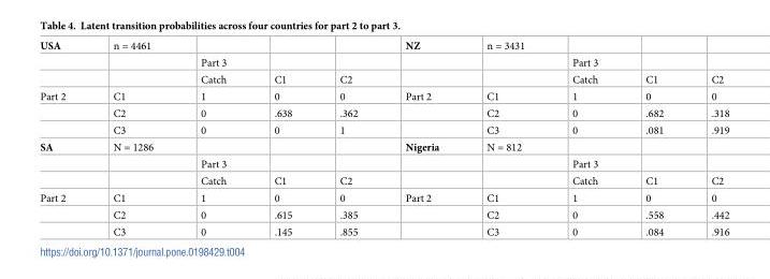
<table><tbody><tr><td rowspan="3">USA</td><td>n = 4461</td><td></td><td></td><td></td><td>NZ</td><td>n = 3431</td><td></td><td></td><td></td></tr><tr><td></td><td>Part 3</td><td></td><td></td><td></td><td></td><td>Part 3</td><td></td><td></td></tr><tr><td></td><td>Catch</td><td>C1</td><td>C2</td><td></td><td></td><td>Catch</td><td>C1</td><td>C2</td></tr><tr><td rowspan="3">Part 2</td><td>C1</td><td>1</td><td>0</td><td>0</td><td>Part 2</td><td>C1</td><td>1</td><td>0</td><td>0</td></tr><tr><td>C2</td><td>0</td><td>.638</td><td>.362</td><td></td><td>C2</td><td>0</td><td>.682</td><td>.318</td></tr><tr><td>C3</td><td>0</td><td>0</td><td>1</td><td></td><td>C3</td><td>0</td><td>.081</td><td>.919</td></tr><tr><td rowspan="3">SA</td><td>N = 1286</td><td></td><td></td><td></td><td>Nigeria</td><td>N = 812</td><td></td><td></td><td></td></tr><tr><td></td><td>Part 3</td><td></td><td></td><td></td><td></td><td>Part 3</td><td></td><td></td></tr><tr><td></td><td>Catch</td><td>C1</td><td>C2</td><td></td><td></td><td>Catch</td><td>C1</td><td>C2</td></tr><tr><td rowspan="3">Part 2</td><td>C1</td><td>1</td><td>0</td><td>0</td><td>Part 2</td><td>C1</td><td>1</td><td>0</td><td>0</td></tr><tr><td>C2</td><td>0</td><td>.615</td><td>.385</td><td></td><td>C2</td><td>0</td><td>.558</td><td>.442</td></tr><tr><td>C3</td><td>0</td><td>.145</td><td>.855</td><td></td><td>C3</td><td>0</td><td>.084</td><td>.916</td></tr></tbody></table>